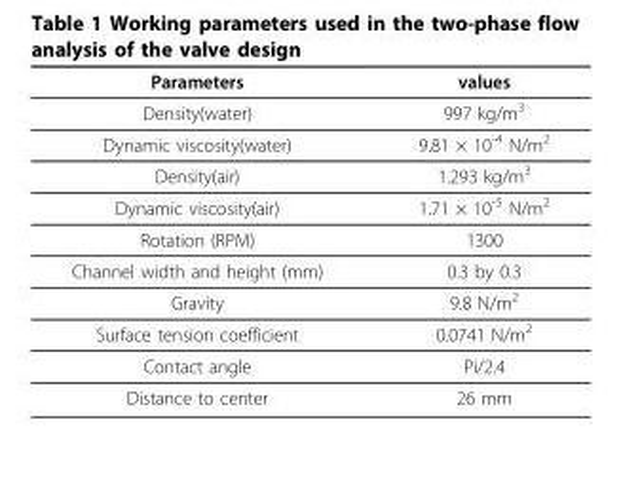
<table><thead><tr><td>Parameters</td><td>values</td></tr></thead><tbody><tr><td>Density(water)</td><td>997 kg/m<sup>3</sup></td></tr><tr><td>Dynamic viscosity(water)</td><td>9.81 × 10<sup>-4</sup> N/m<sup>2</sup></td></tr><tr><td>Density(air)</td><td>1.293 kg/m<sup>3</sup></td></tr><tr><td>Dynamic viscosity(air)</td><td>1.71 × 10<sup>-5</sup> N/m<sup>2</sup></td></tr><tr><td>Rotation (RPM)</td><td>1300</td></tr><tr><td>Channel width and height (mm)</td><td>0.3 by 0.3</td></tr><tr><td>Gravity</td><td>9.8 N/m<sup>2</sup></td></tr><tr><td>Surface tension coefficient</td><td>0.0741 N/m<sup>2</sup></td></tr><tr><td>Contact angle</td><td>Pi/2.4</td></tr><tr><td>Distance to center</td><td>26 mm</td></tr></tbody></table>